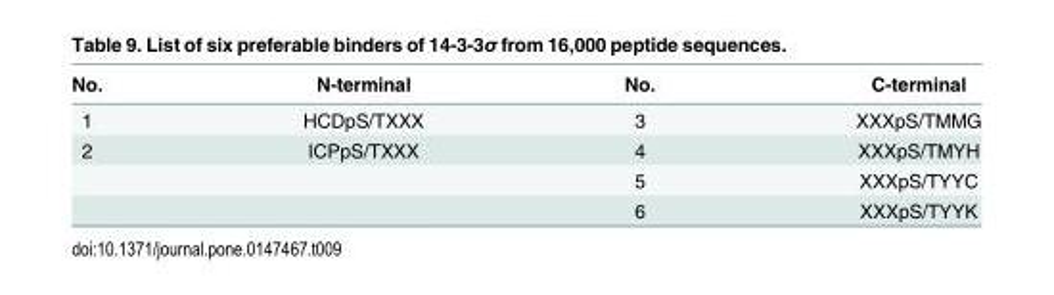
<table><thead><tr><td>No.</td><td>N-terminal</td><td>No.</td><td>C-terminal</td></tr></thead><tbody><tr><td>1</td><td>HCDpS/TXXX</td><td>3</td><td>XXXpS/TMMG</td></tr><tr><td rowspan="3">2</td><td>ICPpS/TXXX</td><td>4</td><td>XXXpS/TMYH</td></tr><tr><td></td><td>5</td><td>XXXpS/TYYC</td></tr><tr><td></td><td>6</td><td>XXXpS/TYYK</td></tr></tbody></table>